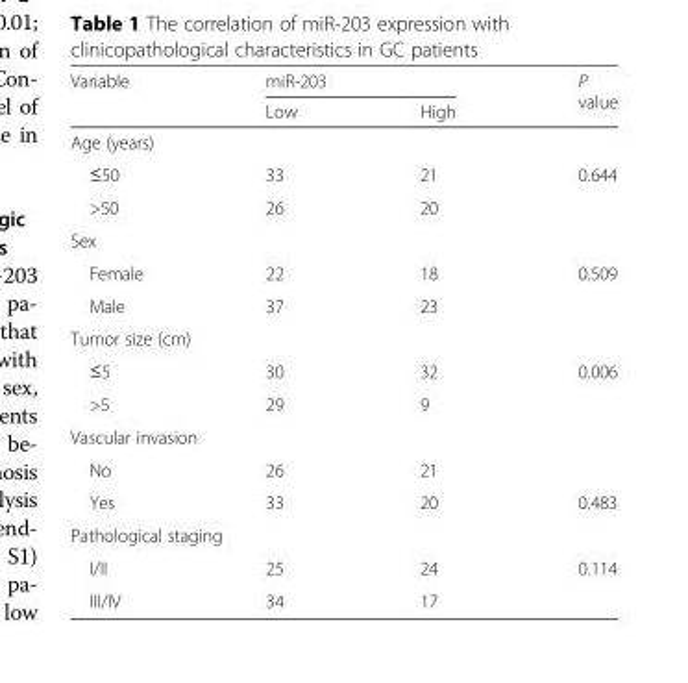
<table><thead><tr><td rowspan="2">Variable</td><td colspan="2">miR-203</td><td rowspan="2">P value</td></tr><tr><td>Low</td><td>High</td></tr></thead><tbody><tr><td colspan="4">Age (years)</td></tr><tr><td>≤50</td><td>33</td><td>21</td><td rowspan="2">0.644</td></tr><tr><td>&gt;50</td><td>26</td><td>20</td></tr><tr><td colspan="4">Sex</td></tr><tr><td>Female</td><td>22</td><td>18</td><td rowspan="2">0.509</td></tr><tr><td>Male</td><td>37</td><td>23</td></tr><tr><td colspan="4">Tumor size (cm)</td></tr><tr><td>≤5</td><td>30</td><td>32</td><td rowspan="2">0.006</td></tr><tr><td>&gt;5</td><td>29</td><td>9</td></tr><tr><td colspan="4">Vascular invasion</td></tr><tr><td>No</td><td>26</td><td>21</td><td></td></tr><tr><td>Yes</td><td>33</td><td>20</td><td>0.483</td></tr><tr><td colspan="4">Pathological staging</td></tr><tr><td>I/II</td><td>25</td><td>24</td><td rowspan="2">0.114</td></tr><tr><td>III/IV</td><td>34</td><td>17</td></tr></tbody></table>